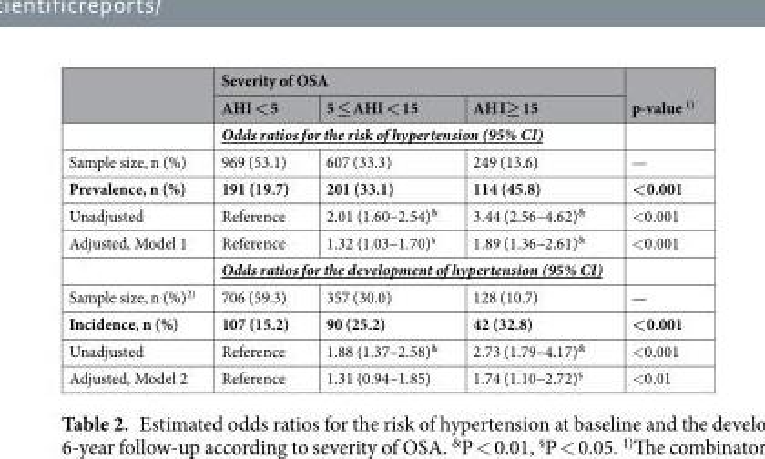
<table><thead><tr><td rowspan="2"></td><td colspan="3">Severity of OSA</td><td rowspan="2">p-value <sup>1)</sup></td></tr><tr><td>AHI &lt; 5</td><td>5 ≤ AHI &lt; 15</td><td>AH I≥ 15</td></tr></thead><tbody><tr><td></td><td colspan="3">Odds ratios for the risk of hypertension (95% CI)</td><td></td></tr><tr><td>Sample size, n (%)</td><td>969 (53.1)</td><td>607 (33.3)</td><td>249 (13.6)</td><td>—</td></tr><tr><td>Prevalence, n (%)</td><td>191 (19.7)</td><td>201 (33.1)</td><td>114 (45.8)</td><td>&lt;0.001</td></tr><tr><td>Unadjusted</td><td>Reference</td><td>2.01 (1.60–2.54)<sup>&amp;</sup></td><td>3.44 (2.56–4.62)<sup>&amp;</sup></td><td>&lt;0.001</td></tr><tr><td rowspan="2">Adjusted, Model 1</td><td>Reference</td><td>1.32 (1.03–1.70)<sup>§</sup></td><td>1.89 (1.36–2.61)<sup>&amp;</sup></td><td>&lt;0.001</td></tr><tr><td colspan="3">Odds ratios for the development of hypertension (95% CI)</td><td></td></tr><tr><td>Sample size, n (%)<sup>2)</sup></td><td>706 (59.3)</td><td>357 (30.0)</td><td>128 (10.7)</td><td>—</td></tr><tr><td>Incidence, n (%)</td><td>107 (15.2)</td><td>90 (25.2)</td><td>42 (32.8)</td><td>&lt;0.001</td></tr><tr><td>Unadjusted</td><td>Reference</td><td>1.88 (1.37–2.58)<sup>&amp;</sup></td><td>2.73 (1.79–4.17)<sup>&amp;</sup></td><td>&lt;0.001</td></tr><tr><td>Adjusted, Model 2</td><td>Reference</td><td>1.31 (0.94–1.85)</td><td>1.74 (1.10–2.72)<sup>§</sup></td><td>&lt;0.01</td></tr></tbody></table>